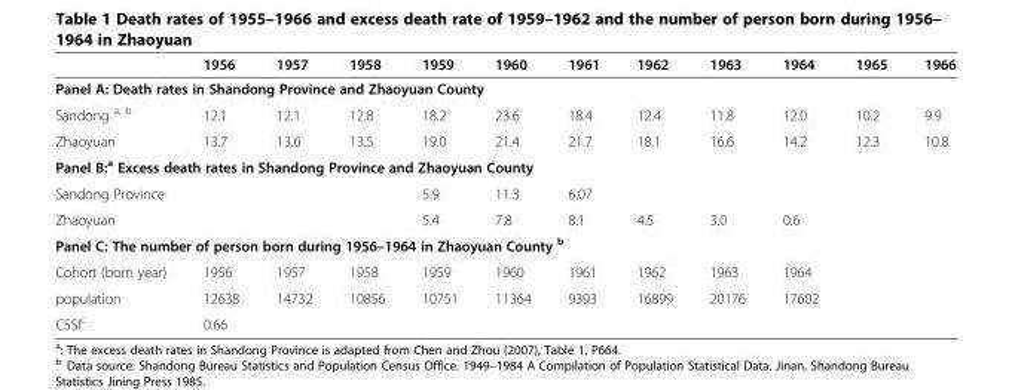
<table><thead><tr><td></td><td>1956</td><td>1957</td><td>1958</td><td>1959</td><td>1960</td><td>1961</td><td>1962</td><td>1963</td><td>1964</td><td>1965</td><td>1966</td></tr></thead><tbody><tr><td colspan="12">Panel A: Death rates in Shandong Province and Zhaoyuan County</td></tr><tr><td>Sandong <sup>a, b</sup></td><td>12.1</td><td>12.1</td><td>12.8</td><td>18.2</td><td>23.6</td><td>18.4</td><td>12.4</td><td>11.8</td><td>12.0</td><td>10.2</td><td>9.9</td></tr><tr><td>Zhaoyuan</td><td>13.7</td><td>13.6</td><td>13.5</td><td>19.0</td><td>21.4</td><td>21.7</td><td>18.1</td><td>16.6</td><td>14.2</td><td>12.3</td><td>10.8</td></tr><tr><td colspan="12">Panel B:<sup>a</sup> Excess death rates in Shandong Province and Zhaoyuan County</td></tr><tr><td>Sandong Province</td><td></td><td></td><td></td><td>5.9</td><td>11.3</td><td>6.07</td><td></td><td></td><td></td><td></td><td></td></tr><tr><td>Zhaoyuan</td><td></td><td></td><td></td><td>5.4</td><td>7.8</td><td>8.1</td><td>4.5</td><td>3.0</td><td>0.6</td><td></td><td></td></tr><tr><td colspan="12">Panel C: The number of person born during 1956–1964 in Zhaoyuan County <sup>b</sup></td></tr><tr><td>Cohort (born year)</td><td>1956</td><td>1957</td><td>1958</td><td>1959</td><td>1960</td><td>1961</td><td>1962</td><td>1963</td><td>1964</td><td></td><td></td></tr><tr><td>population</td><td>12638</td><td>14732</td><td>10856</td><td>10751</td><td>11364</td><td>9393</td><td>16899</td><td>20176</td><td>17602</td><td></td><td></td></tr><tr><td>CSSI<sup>c</sup></td><td>0.66</td><td></td><td></td><td></td><td></td><td></td><td></td><td></td><td></td><td></td><td></td></tr></tbody></table>